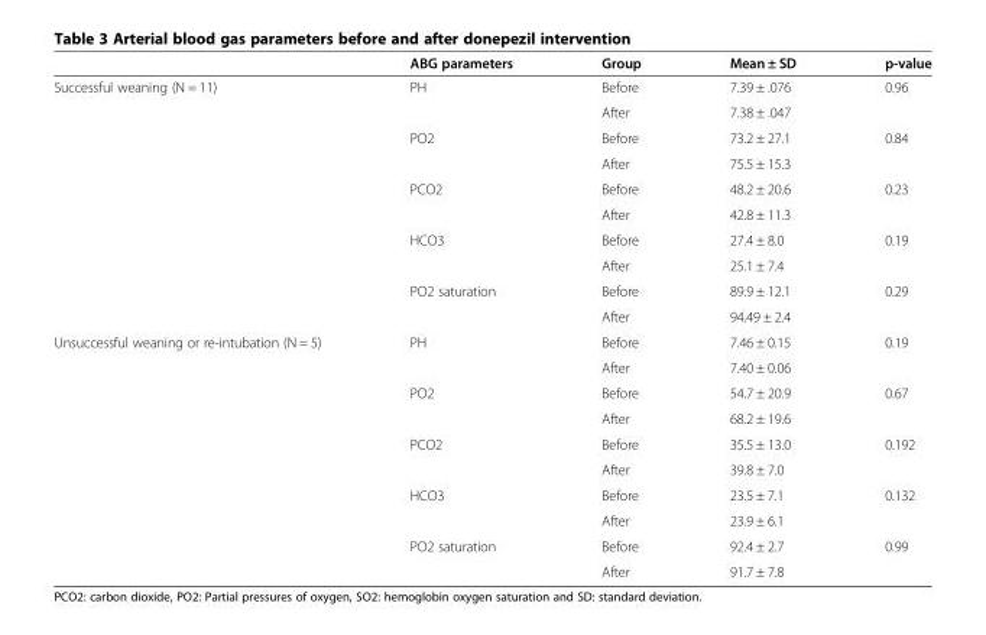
<table><thead><tr><td></td><td>ABG parameters</td><td>Group</td><td>Mean ± SD</td><td>p-value</td></tr></thead><tbody><tr><td rowspan="10">Successful weaning (N = 11)</td><td rowspan="2">PH</td><td>Before</td><td>7.39 ± .076</td><td rowspan="2">0.96</td></tr><tr><td>After</td><td>7.38 ± .047</td></tr><tr><td rowspan="2">PO2</td><td>Before</td><td>73.2 ± 27.1</td><td rowspan="2">0.84</td></tr><tr><td>After</td><td>75.5 ± 15.3</td></tr><tr><td rowspan="2">PCO2</td><td>Before</td><td>48.2 ± 20.6</td><td rowspan="2">0.23</td></tr><tr><td>After</td><td>42.8 ± 11.3</td></tr><tr><td rowspan="2">HCO3</td><td>Before</td><td>27.4 ± 8.0</td><td rowspan="2">0.19</td></tr><tr><td>After</td><td>25.1 ± 7.4</td></tr><tr><td rowspan="2">PO2 saturation</td><td>Before</td><td>89.9 ± 12.1</td><td rowspan="2">0.29</td></tr><tr><td>After</td><td>94.49 ± 2.4</td></tr><tr><td rowspan="10">Unsuccessful weaning or re-intubation (N = 5)</td><td rowspan="2">PH</td><td>Before</td><td>7.46 ± 0.15</td><td rowspan="2">0.19</td></tr><tr><td>After</td><td>7.40 ± 0.06</td></tr><tr><td rowspan="2">PO2</td><td>Before</td><td>54.7 ± 20.9</td><td rowspan="2">0.67</td></tr><tr><td>After</td><td>68.2 ± 19.6</td></tr><tr><td rowspan="2">PCO2</td><td>Before</td><td>35.5 ± 13.0</td><td rowspan="2">0.192</td></tr><tr><td>After</td><td>39.8 ± 7.0</td></tr><tr><td rowspan="2">HCO3</td><td>Before</td><td>23.5 ± 7.1</td><td rowspan="2">0.132</td></tr><tr><td>After</td><td>23.9 ± 6.1</td></tr><tr><td rowspan="2">PO2 saturation</td><td>Before</td><td>92.4 ± 2.7</td><td rowspan="2">0.99</td></tr><tr><td>After</td><td>91.7 ± 7.8</td></tr></tbody></table>